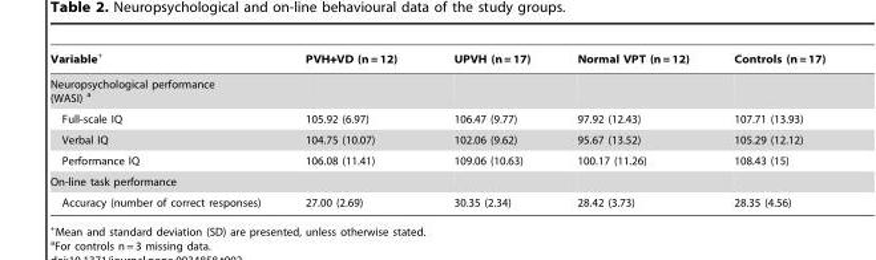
<table><thead><tr><td>Variable+</td><td>PVH+VD (n = 12)</td><td>UPVH (n = 17)</td><td>Normal VPT (n = 12)</td><td>Controls (n = 17)</td></tr></thead><tbody><tr><td colspan="5">Neuropsychological performance (WASI) a</td></tr><tr><td>Full-scale IQ</td><td>105.92 (6.97)</td><td>106.47 (9.77)</td><td>97.92 (12.43)</td><td>107.71 (13.93)</td></tr><tr><td>Verbal IQ</td><td>104.75 (10.07)</td><td>102.06 (9.62)</td><td>95.67 (13.52)</td><td>105.29 (12.12)</td></tr><tr><td>Performance IQ</td><td>106.08 (11.41)</td><td>109.06 (10.63)</td><td>100.17 (11.26)</td><td>108.43 (15)</td></tr><tr><td colspan="5">On-line task performance</td></tr><tr><td>Accuracy (number of correct responses)</td><td>27.00 (2.69)</td><td>30.35 (2.34)</td><td>28.42 (3.73)</td><td>28.35 (4.56)</td></tr></tbody></table>